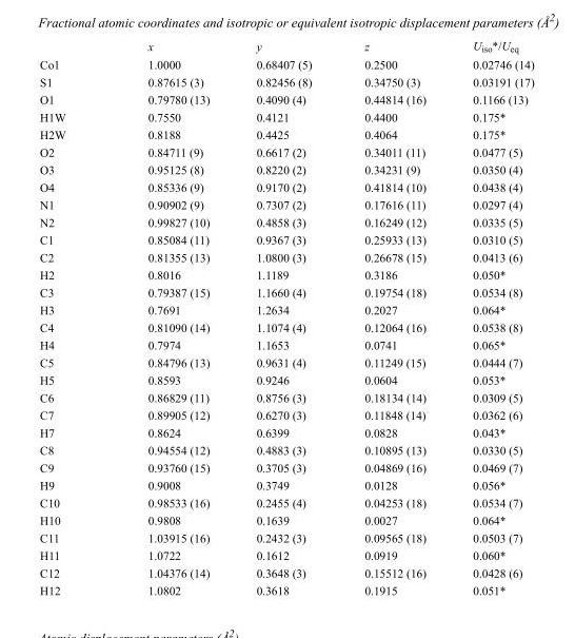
<table><thead><tr><td></td><td>x</td><td>y</td><td>z</td><td>U<sub>iso</sub>*/U<sub>eq</sub></td></tr></thead><tbody><tr><td>Co1</td><td>1.0000</td><td>0.68407 (5)</td><td>0.2500</td><td>0.02746 (14)</td></tr><tr><td>S1</td><td>0.87615 (3)</td><td>0.82456 (8)</td><td>0.34750 (3)</td><td>0.03191 (17)</td></tr><tr><td>O1</td><td>0.79780 (13)</td><td>0.4090 (4)</td><td>0.44814 (16)</td><td>0.1166 (13)</td></tr><tr><td>H1W</td><td>0.7550</td><td>0.4121</td><td>0.4400</td><td>0.175*</td></tr><tr><td>H2W</td><td>0.8188</td><td>0.4425</td><td>0.4064</td><td>0.175*</td></tr><tr><td>O2</td><td>0.84711 (9)</td><td>0.6617 (2)</td><td>0.34011 (11)</td><td>0.0477 (5)</td></tr><tr><td>O3</td><td>0.95125 (8)</td><td>0.8220 (2)</td><td>0.34231 (9)</td><td>0.0350 (4)</td></tr><tr><td>O4</td><td>0.85336 (9)</td><td>0.9170 (2)</td><td>0.41814 (10)</td><td>0.0438 (4)</td></tr><tr><td>N1</td><td>0.90902 (9)</td><td>0.7307 (2)</td><td>0.17616 (11)</td><td>0.0297 (4)</td></tr><tr><td>N2</td><td>0.99827 (10)</td><td>0.4858 (3)</td><td>0.16249 (12)</td><td>0.0335 (5)</td></tr><tr><td>C1</td><td>0.85084 (11)</td><td>0.9367 (3)</td><td>0.25933 (13)</td><td>0.0310 (5)</td></tr><tr><td>C2</td><td>0.81355 (13)</td><td>1.0800 (3)</td><td>0.26678 (15)</td><td>0.0413 (6)</td></tr><tr><td>H2</td><td>0.8016</td><td>1.1189</td><td>0.3186</td><td>0.050*</td></tr><tr><td>C3</td><td>0.79387 (15)</td><td>1.1660 (4)</td><td>0.19754 (18)</td><td>0.0534 (8)</td></tr><tr><td>H3</td><td>0.7691</td><td>1.2634</td><td>0.2027</td><td>0.064*</td></tr><tr><td>C4</td><td>0.81090 (14)</td><td>1.1074 (4)</td><td>0.12064 (16)</td><td>0.0538 (8)</td></tr><tr><td>H4</td><td>0.7974</td><td>1.1653</td><td>0.0741</td><td>0.065*</td></tr><tr><td>C5</td><td>0.84796 (13)</td><td>0.9631 (4)</td><td>0.11249 (15)</td><td>0.0444 (7)</td></tr><tr><td>H5</td><td>0.8593</td><td>0.9246</td><td>0.0604</td><td>0.053*</td></tr><tr><td>C6</td><td>0.86829 (11)</td><td>0.8756 (3)</td><td>0.18134 (14)</td><td>0.0309 (5)</td></tr><tr><td>C7</td><td>0.89905 (12)</td><td>0.6270 (3)</td><td>0.11848 (14)</td><td>0.0362 (6)</td></tr><tr><td>H7</td><td>0.8624</td><td>0.6399</td><td>0.0828</td><td>0.043*</td></tr><tr><td>C8</td><td>0.94554 (12)</td><td>0.4883 (3)</td><td>0.10895 (13)</td><td>0.0330 (5)</td></tr><tr><td>C9</td><td>0.93760 (15)</td><td>0.3705 (3)</td><td>0.04869 (16)</td><td>0.0469 (7)</td></tr><tr><td>H9</td><td>0.9008</td><td>0.3749</td><td>0.0128</td><td>0.056*</td></tr><tr><td>C10</td><td>0.98533 (16)</td><td>0.2455 (4)</td><td>0.04253 (18)</td><td>0.0534 (7)</td></tr><tr><td>H10</td><td>0.9808</td><td>0.1639</td><td>0.0027</td><td>0.064*</td></tr><tr><td>C11</td><td>1.03915 (16)</td><td>0.2432 (3)</td><td>0.09565 (18)</td><td>0.0503 (7)</td></tr><tr><td>H11</td><td>1.0722</td><td>0.1612</td><td>0.0919</td><td>0.060*</td></tr><tr><td>C12</td><td>1.04376 (14)</td><td>0.3648 (3)</td><td>0.15512 (16)</td><td>0.0428 (6)</td></tr><tr><td>H12</td><td>1.0802</td><td>0.3618</td><td>0.1915</td><td>0.051*</td></tr></tbody></table>